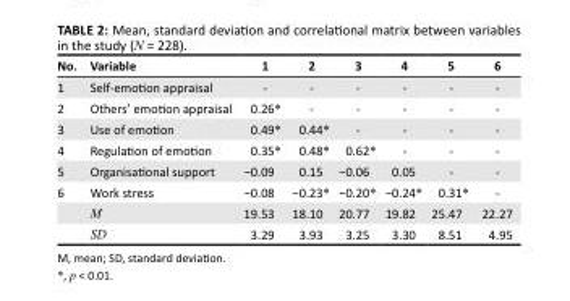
<table><thead><tr><td>No.</td><td>Variable</td><td>1</td><td>2</td><td>3</td><td>4</td><td>5</td><td>6</td></tr></thead><tbody><tr><td>1</td><td>Self-emotion appraisal</td><td>-</td><td>-</td><td>-</td><td>-</td><td>-</td><td>-</td></tr><tr><td>2</td><td>Others’ emotion appraisal</td><td>0.26*</td><td>-</td><td>-</td><td>-</td><td>-</td><td>-</td></tr><tr><td>3</td><td>Use of emotion</td><td>0.49*</td><td>0.44*</td><td>-</td><td>-</td><td>-</td><td>-</td></tr><tr><td>4</td><td>Regulation of emotion</td><td>0.35*</td><td>0.48*</td><td>0.62*</td><td>-</td><td>-</td><td>-</td></tr><tr><td>5</td><td>Organisational support</td><td>−0.09</td><td>0.15</td><td>−0.06</td><td>0.05</td><td>-</td><td>-</td></tr><tr><td rowspan="3">6</td><td>Work stress</td><td>−0.08</td><td>−0.23*</td><td>−0.20*</td><td>−0.24*</td><td>0.31*</td><td>-</td></tr><tr><td>M</td><td>19.53</td><td>18.10</td><td>20.77</td><td>19.82</td><td>25.47</td><td>22.27</td></tr><tr><td>SD</td><td>3.29</td><td>3.93</td><td>3.25</td><td>3.30</td><td>8.51</td><td>4.95</td></tr></tbody></table>